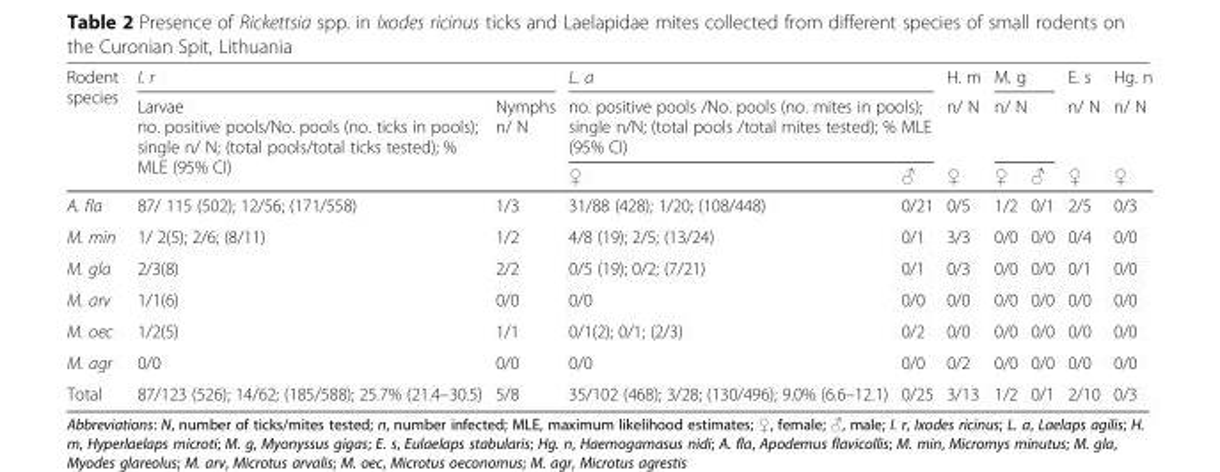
<table><thead><tr><td rowspan="3">Rodent species</td><td colspan="2">I. r</td><td rowspan="2" colspan="2">L. a no. positive pools /No. pools (no. mites in pools); single n/N; (total pools /total mites tested); % MLE (95% CI)</td><td rowspan="3">H. m n/ N ♀</td><td rowspan="2" colspan="2">M. g n/ N</td><td rowspan="3">E. s n/ N ♀</td><td rowspan="3">Hg. n n/ N ♀</td></tr><tr><td rowspan="2">Larvae no. positive pools/No. pools (no. ticks in pools); single n/ N; (total pools/total ticks tested); % MLE (95% CI)</td><td rowspan="2">Nymphs n/ N</td></tr><tr><td>♀</td><td>♂</td><td>♀</td><td>♂</td></tr></thead><tbody><tr><td>A. fla</td><td>87/ 115 (502); 12/56; (171/558)</td><td>1/3</td><td>31/88 (428); 1/20; (108/448)</td><td>0/21</td><td>0/5</td><td>1/2</td><td>0/1</td><td>2/5</td><td>0/3</td></tr><tr><td>M. min</td><td>1/ 2(5); 2/6; (8/11)</td><td>1/2</td><td>4/8 (19); 2/5; (13/24)</td><td>0/1</td><td>3/3</td><td>0/0</td><td>0/0</td><td>0/4</td><td>0/0</td></tr><tr><td>M. gla</td><td>2/3(8)</td><td>2/2</td><td>0/5 (19); 0/2; (7/21)</td><td>0/1</td><td>0/3</td><td>0/0</td><td>0/0</td><td>0/1</td><td>0/0</td></tr><tr><td>M. arv</td><td>1/1(6)</td><td>0/0</td><td>0/0</td><td>0/0</td><td>0/0</td><td>0/0</td><td>0/0</td><td>0/0</td><td>0/0</td></tr><tr><td>M. oec</td><td>1/2(5)</td><td>1/1</td><td>0/1(2); 0/1; (2/3)</td><td>0/2</td><td>0/0</td><td>0/0</td><td>0/0</td><td>0/0</td><td>0/0</td></tr><tr><td>M. agr</td><td>0/0</td><td>0/0</td><td>0/0</td><td>0/0</td><td>0/2</td><td>0/0</td><td>0/0</td><td>0/0</td><td>0/0</td></tr><tr><td>Total</td><td>87/123 (526); 14/62; (185/588); 25.7% (21.4–30.5)</td><td>5/8</td><td>35/102 (468); 3/28; (130/496); 9.0% (6.6–12.1)</td><td>0/25</td><td>3/13</td><td>1/2</td><td>0/1</td><td>2/10</td><td>0/3</td></tr></tbody></table>